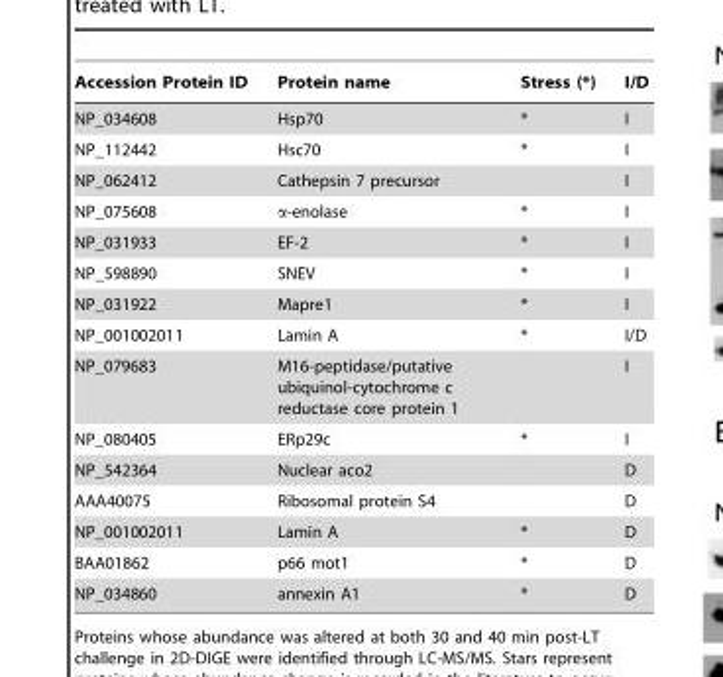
<table><thead><tr><td>Accession Protein ID</td><td>Protein name</td><td>Stress (*)</td><td>I/D</td></tr></thead><tbody><tr><td>NP_034608</td><td>Hsp70</td><td>*</td><td>I</td></tr><tr><td>NP_112442</td><td>Hsc70</td><td>*</td><td>I</td></tr><tr><td>NP_062412</td><td>Cathepsin 7 precursor</td><td></td><td>I</td></tr><tr><td>NP_075608</td><td>α-enolase</td><td>*</td><td>I</td></tr><tr><td>NP_031933</td><td>EF-2</td><td>*</td><td>I</td></tr><tr><td>NP_598890</td><td>SNEV</td><td>*</td><td>I</td></tr><tr><td>NP_031922</td><td>Mapre1</td><td>*</td><td>I</td></tr><tr><td>NP_001002011</td><td>Lamin A</td><td>*</td><td>I/D</td></tr><tr><td>NP_079683</td><td>M16-peptidase/putative ubiquinol-cytochrome c reductase core protein 1</td><td></td><td>I</td></tr><tr><td>NP_080405</td><td>ERp29c</td><td>*</td><td>I</td></tr><tr><td>NP_542364</td><td>Nuclear aco2</td><td></td><td>D</td></tr><tr><td>AAA40075</td><td>Ribosomal protein S4</td><td></td><td>D</td></tr><tr><td>NP_001002011</td><td>Lamin A</td><td>*</td><td>D</td></tr><tr><td>BAA01862</td><td>p66 mot1</td><td>*</td><td>D</td></tr><tr><td>NP_034860</td><td>annexin A1</td><td>*</td><td>D</td></tr></tbody></table>